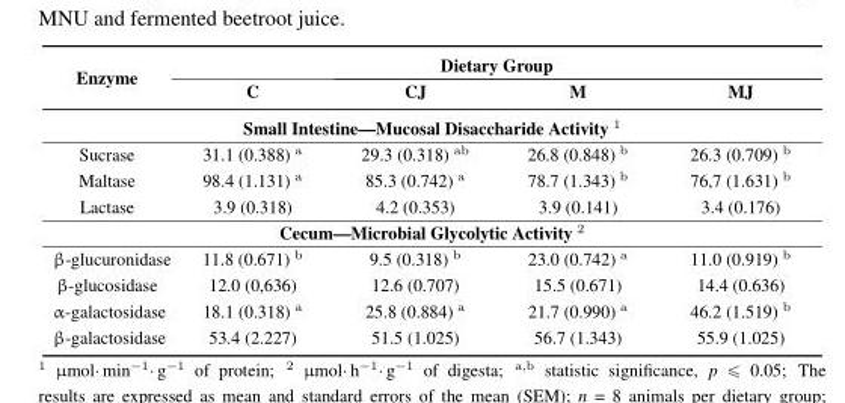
<table><thead><tr><td rowspan="2">Enzyme</td><td colspan="4">Dietary Group</td></tr><tr><td>C</td><td>CJ</td><td>M</td><td>MJ</td></tr></thead><tbody><tr><td colspan="5">Small Intestine—Mucosal Disaccharide Activity <sup>1</sup></td></tr><tr><td>Sucrase</td><td>31.1 (0.388) <sup>a</sup></td><td>29.3 (0.318) <sup>ab</sup></td><td>26.8 (0.848) <sup>b</sup></td><td>26.3 (0.709) <sup>b</sup></td></tr><tr><td>Maltase</td><td>98.4 (1.131) <sup>a</sup></td><td>85.3 (0.742) <sup>a</sup></td><td>78.7 (1.343) <sup>b</sup></td><td>76,7 (1.631) <sup>b</sup></td></tr><tr><td>Lactase</td><td>3.9 (0.318)</td><td>4.2 (0.353)</td><td>3.9 (0.141)</td><td>3.4 (0.176)</td></tr><tr><td colspan="5">Cecum—Microbial Glycolytic Activity <sup>2</sup></td></tr><tr><td>β-glucuronidase</td><td>11.8 (0.671) <sup>b</sup></td><td>9.5 (0.318) <sup>b</sup></td><td>23.0 (0.742) <sup>a</sup></td><td>11.0 (0.919) <sup>b</sup></td></tr><tr><td>β-glucosidase</td><td>12.0 (0,636)</td><td>12.6 (0.707)</td><td>15.5 (0.671)</td><td>14.4 (0.636)</td></tr><tr><td>α-galactosidase</td><td>18.1 (0.318) <sup>a</sup></td><td>25.8 (0.884) <sup>a</sup></td><td>21.7 (0.990) <sup>a</sup></td><td>46.2 (1.519) <sup>b</sup></td></tr><tr><td>β-galactosidase</td><td>53.4 (2.227)</td><td>51.5 (1.025)</td><td>56.7 (1.343)</td><td>55.9 (1.025)</td></tr></tbody></table>